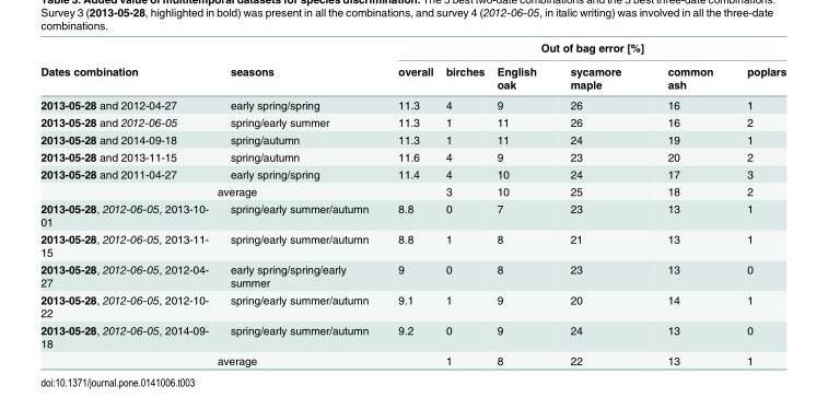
<table><thead><tr><td rowspan="2">Dates combination</td><td rowspan="2">seasons</td><td colspan="6">Out of bag error [%]</td></tr><tr><td>overall</td><td>birches</td><td>English oak</td><td>sycamore maple</td><td>common ash</td><td>poplars</td></tr></thead><tbody><tr><td>2013-05-28 and 2012-04-27</td><td>early spring/spring</td><td>11.3</td><td>4</td><td>9</td><td>26</td><td>16</td><td>1</td></tr><tr><td>2013-05-28 and 2012-06-05</td><td>spring/early summer</td><td>11.3</td><td>1</td><td>11</td><td>26</td><td>16</td><td>2</td></tr><tr><td>2013-05-28 and 2014-09-18</td><td>spring/autumn</td><td>11.3</td><td>1</td><td>11</td><td>24</td><td>19</td><td>1</td></tr><tr><td>2013-05-28 and 2013-11-15</td><td>spring/autumn</td><td>11.6</td><td>4</td><td>9</td><td>23</td><td>20</td><td>2</td></tr><tr><td>2013-05-28 and 2011-04-27</td><td>early spring/spring</td><td>11.4</td><td>4</td><td>10</td><td>24</td><td>17</td><td>3</td></tr><tr><td colspan="3">average</td><td>3</td><td>10</td><td>25</td><td>18</td><td>2</td></tr><tr><td>2013-05-28, 2012-06-05, 2013-10- 01</td><td>spring/early summer/autumn</td><td>8.8</td><td>0</td><td>7</td><td>23</td><td>13</td><td>1</td></tr><tr><td>2013-05-28, 2012-06-05, 2013-11- 15</td><td>spring/early summer/autumn</td><td>8.8</td><td>1</td><td>8</td><td>21</td><td>13</td><td>1</td></tr><tr><td>2013-05-28, 2012-06-05, 2012-04- 27</td><td>early spring/spring/early summer</td><td>9</td><td>0</td><td>8</td><td>23</td><td>13</td><td>0</td></tr><tr><td>2013-05-28, 2012-06-05, 2012-10- 22</td><td>spring/early summer/autumn</td><td>9.1</td><td>1</td><td>9</td><td>20</td><td>14</td><td>1</td></tr><tr><td>2013-05-28, 2012-06-05, 2014-09- 18</td><td>spring/early summer/autumn</td><td>9.2</td><td>0</td><td>9</td><td>24</td><td>13</td><td>0</td></tr><tr><td colspan="3">average</td><td>1</td><td>8</td><td>22</td><td>13</td><td>1</td></tr></tbody></table>